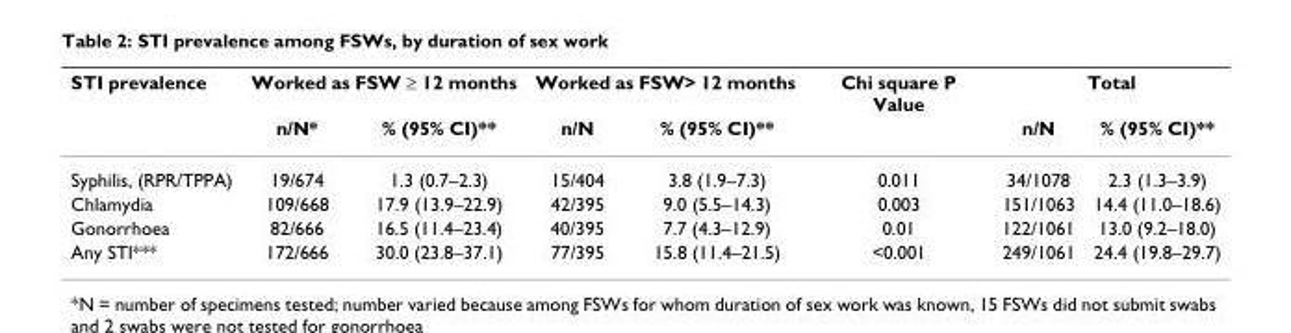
<table><thead><tr><td rowspan="2">STI prevalence</td><td colspan="2">Worked as FSW ≥ 12 months</td><td colspan="2">Worked as FSW&gt; 12 months</td><td rowspan="2">Chi square P Value</td><td colspan="2">Total</td></tr><tr><td>n/N*</td><td>% (95% CI)**</td><td>n/N</td><td>% (95% CI)**</td><td>n/N</td><td>% (95% CI)**</td></tr></thead><tbody><tr><td>Syphilis, (RPR/TPPA)</td><td>19/674</td><td>1.3 (0.7–2.3)</td><td>15/404</td><td>3.8 (1.9–7.3)</td><td>0.011</td><td>34/1078</td><td>2.3 (1.3–3.9)</td></tr><tr><td>Chlamydia</td><td>109/668</td><td>17.9 (13.9–22.9)</td><td>42/395</td><td>9.0 (5.5–14.3)</td><td>0.003</td><td>151/1063</td><td>14.4 (11.0–18.6)</td></tr><tr><td>Gonorrhoea</td><td>82/666</td><td>16.5 (11.4–23.4)</td><td>40/395</td><td>7.7 (4.3–12.9)</td><td>0.01</td><td>122/1061</td><td>13.0 (9.2–18.0)</td></tr><tr><td>Any STI***</td><td>172/666</td><td>30.0 (23.8–37.1)</td><td>77/395</td><td>15.8 (11.4–21.5)</td><td>&lt;0.001</td><td>249/1061</td><td>24.4 (19.8–29.7)</td></tr></tbody></table>